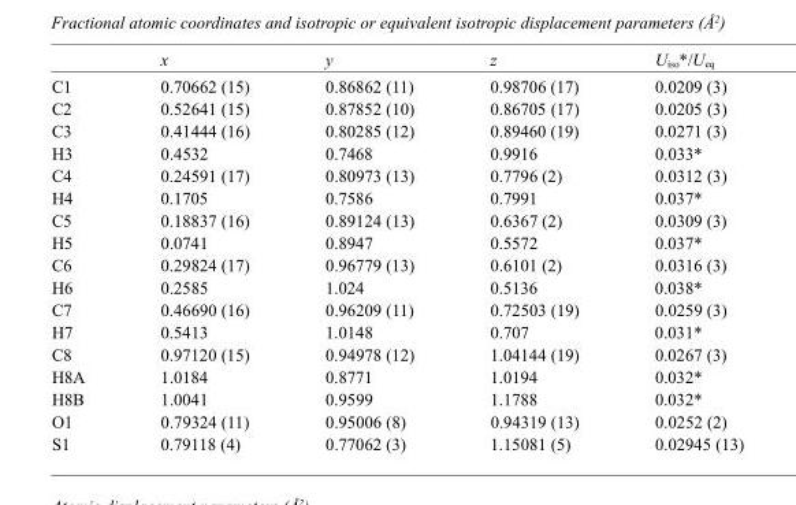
<table><thead><tr><td></td><td>x</td><td>y</td><td>z</td><td>U<sub>iso</sub>*/U<sub>eq</sub></td></tr></thead><tbody><tr><td>C1</td><td>0.70662 (15)</td><td>0.86862 (11)</td><td>0.98706 (17)</td><td>0.0209 (3)</td></tr><tr><td>C2</td><td>0.52641 (15)</td><td>0.87852 (10)</td><td>0.86705 (17)</td><td>0.0205 (3)</td></tr><tr><td>C3</td><td>0.41444 (16)</td><td>0.80285 (12)</td><td>0.89460 (19)</td><td>0.0271 (3)</td></tr><tr><td>H3</td><td>0.4532</td><td>0.7468</td><td>0.9916</td><td>0.033*</td></tr><tr><td>C4</td><td>0.24591 (17)</td><td>0.80973 (13)</td><td>0.7796 (2)</td><td>0.0312 (3)</td></tr><tr><td>H4</td><td>0.1705</td><td>0.7586</td><td>0.7991</td><td>0.037*</td></tr><tr><td>C5</td><td>0.18837 (16)</td><td>0.89124 (13)</td><td>0.6367 (2)</td><td>0.0309 (3)</td></tr><tr><td>H5</td><td>0.0741</td><td>0.8947</td><td>0.5572</td><td>0.037*</td></tr><tr><td>C6</td><td>0.29824 (17)</td><td>0.96779 (13)</td><td>0.6101 (2)</td><td>0.0316 (3)</td></tr><tr><td>H6</td><td>0.2585</td><td>1.024</td><td>0.5136</td><td>0.038*</td></tr><tr><td>C7</td><td>0.46690 (16)</td><td>0.96209 (11)</td><td>0.72503 (19)</td><td>0.0259 (3)</td></tr><tr><td>H7</td><td>0.5413</td><td>1.0148</td><td>0.707</td><td>0.031*</td></tr><tr><td>C8</td><td>0.97120 (15)</td><td>0.94978 (12)</td><td>1.04144 (19)</td><td>0.0267 (3)</td></tr><tr><td>H8A</td><td>1.0184</td><td>0.8771</td><td>1.0194</td><td>0.032*</td></tr><tr><td>H8B</td><td>1.0041</td><td>0.9599</td><td>1.1788</td><td>0.032*</td></tr><tr><td>O1</td><td>0.79324 (11)</td><td>0.95006 (8)</td><td>0.94319 (13)</td><td>0.0252 (2)</td></tr><tr><td>S1</td><td>0.79118 (4)</td><td>0.77062 (3)</td><td>1.15081 (5)</td><td>0.02945 (13)</td></tr></tbody></table>